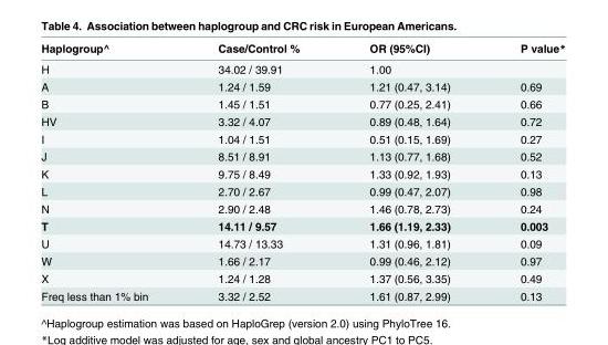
<table><thead><tr><td>Haplogroup^</td><td>Case/Control %</td><td>OR (95%CI)</td><td>P value*</td></tr></thead><tbody><tr><td>H</td><td>34.02 / 39.91</td><td>1.00</td><td></td></tr><tr><td>A</td><td>1.24 / 1.59</td><td>1.21 (0.47, 3.14)</td><td>0.69</td></tr><tr><td>B</td><td>1.45 / 1.51</td><td>0.77 (0.25, 2.41)</td><td>0.66</td></tr><tr><td>HV</td><td>3.32 / 4.07</td><td>0.89 (0.48, 1.64)</td><td>0.72</td></tr><tr><td>I</td><td>1.04 / 1.51</td><td>0.51 (0.15, 1.69)</td><td>0.27</td></tr><tr><td>J</td><td>8.51 / 8.91</td><td>1.13 (0.77, 1.68)</td><td>0.52</td></tr><tr><td>K</td><td>9.75 / 8.49</td><td>1.33 (0.92, 1.93)</td><td>0.13</td></tr><tr><td>L</td><td>2.70 / 2.67</td><td>0.99 (0.47, 2.07)</td><td>0.98</td></tr><tr><td>N</td><td>2.90 / 2.48</td><td>1.46 (0.78, 2.73)</td><td>0.24</td></tr><tr><td>T</td><td>14.11 / 9.57</td><td>1.66 (1.19, 2.33)</td><td>0.003</td></tr><tr><td>U</td><td>14.73 / 13.33</td><td>1.31 (0.96, 1.81)</td><td>0.09</td></tr><tr><td>W</td><td>1.66 / 2.17</td><td>0.99 (0.46, 2.12)</td><td>0.97</td></tr><tr><td>X</td><td>1.24 / 1.28</td><td>1.37 (0.56, 3.35)</td><td>0.49</td></tr><tr><td>Freq less than 1% bin</td><td>3.32 / 2.52</td><td>1.61 (0.87, 2.99)</td><td>0.13</td></tr></tbody></table>